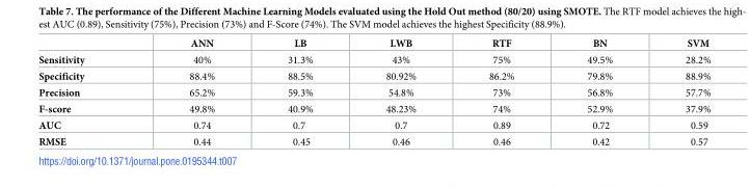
<table><thead><tr><td></td><td>ANN</td><td>LB</td><td>LWB</td><td>RTF</td><td>BN</td><td>SVM</td></tr></thead><tbody><tr><td>Sensitivity</td><td>40%</td><td>31.3%</td><td>43%</td><td>75%</td><td>49.5%</td><td>28.2%</td></tr><tr><td>Specificity</td><td>88.4%</td><td>88.5%</td><td>80.92%</td><td>86.2%</td><td>79.8%</td><td>88.9%</td></tr><tr><td>Precision</td><td>65.2%</td><td>59.3%</td><td>54.8%</td><td>73%</td><td>56.8%</td><td>57.7%</td></tr><tr><td>F-score</td><td>49.8%</td><td>40.9%</td><td>48.23%</td><td>74%</td><td>52.9%</td><td>37.9%</td></tr><tr><td>AUC</td><td>0.74</td><td>0.7</td><td>0.7</td><td>0.89</td><td>0.72</td><td>0.59</td></tr><tr><td>RMSE</td><td>0.44</td><td>0.45</td><td>0.46</td><td>0.46</td><td>0.42</td><td>0.57</td></tr></tbody></table>